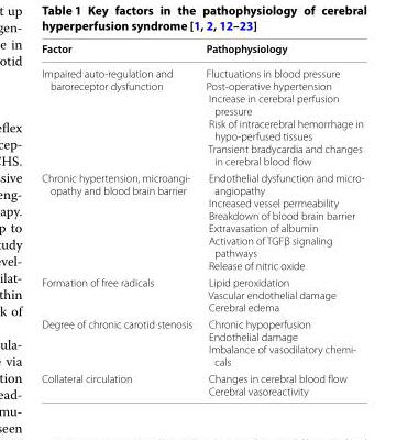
<table><thead><tr><td>Factor</td><td>Pathophysiology</td></tr></thead><tbody><tr><td>Impaired auto-regulation and baroreceptor dysfunction</td><td>Fluctuations in blood pressure Post-operative hypertension Increase in cerebral perfusion pressure Risk of intracerebral hemorrhage in hypo-perfused tissues Transient bradycardia and changes in cerebral blood flow</td></tr><tr><td>Chronic hypertension, microangi- opathy and blood brain barrier</td><td>Endothelial dysfunction and micro- angiopathy Increased vessel permeability Breakdown of blood brain barrier Extravasation of albumin Activation of TGFβ signaling pathways Release of nitric oxide</td></tr><tr><td>Formation of free radicals</td><td>Lipid peroxidation Vascular endothelial damage Cerebral edema</td></tr><tr><td>Degree of chronic carotid stenosis</td><td>Chronic hypoperfusion Endothelial damage Imbalance of vasodilatory chemi- cals</td></tr><tr><td>Collateral circulation</td><td>Changes in cerebral blood flow Cerebral vasoreactivity</td></tr></tbody></table>